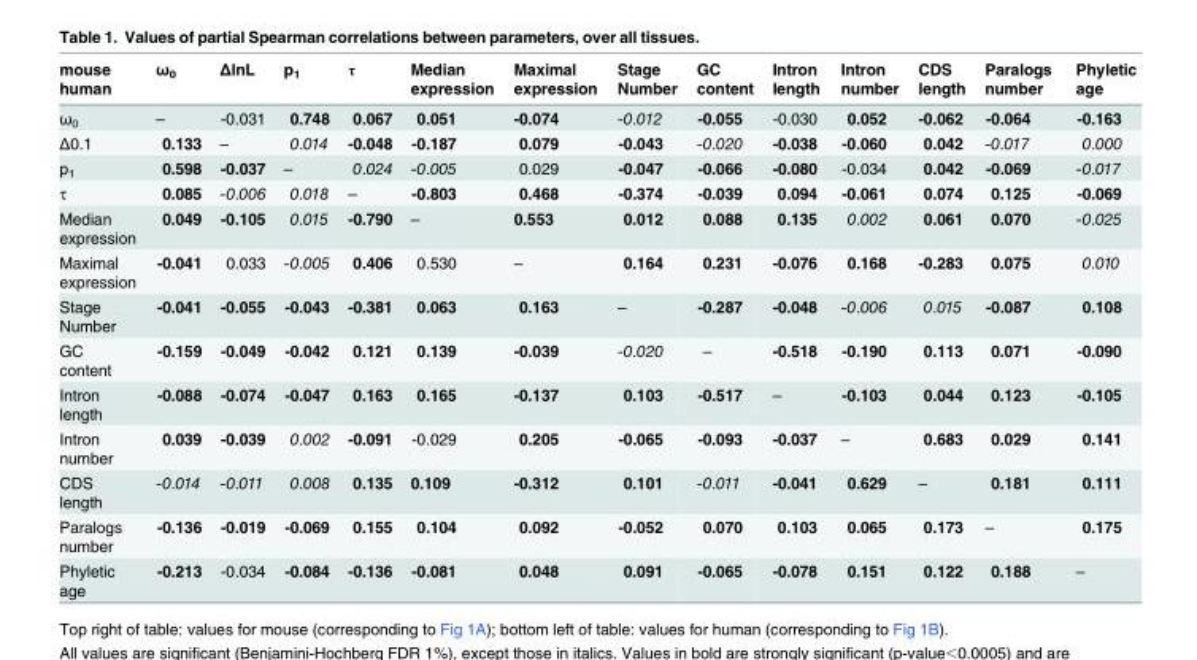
<table><thead><tr><td rowspan="2">mouse human</td><td rowspan="2">ω<sub>0</sub></td><td rowspan="2">ΔlnL</td><td rowspan="2">p<sub>1</sub></td><td rowspan="2">τ</td><td rowspan="2">Median expression</td><td rowspan="2">Maximal expression</td><td rowspan="2">Stage Number</td><td rowspan="2">GC content</td><td rowspan="2">Intron length</td><td rowspan="2">Intron number</td><td rowspan="2">CDS length</td><td rowspan="2">Paralogs number</td><td rowspan="2">Phyletic age</td></tr><tr></tr></thead><tbody><tr><td>ω<sub>0</sub></td><td>–</td><td>-0.031</td><td>0.748</td><td>0.067</td><td>0.051</td><td>-0.074</td><td>-0.012</td><td>-0.055</td><td>-0.030</td><td>0.052</td><td>-0.062</td><td>-0.064</td><td>-0.163</td></tr><tr><td>Δ0.1</td><td>0.133</td><td>–</td><td>0.014</td><td>-0.048</td><td>-0.187</td><td>0.079</td><td>-0.043</td><td>-0.020</td><td>-0.038</td><td>-0.060</td><td>0.042</td><td>-0.017</td><td>0.000</td></tr><tr><td>p<sub>1</sub></td><td>0.598</td><td>-0.037</td><td>–</td><td>0.024</td><td>-0.005</td><td>0.029</td><td>-0.047</td><td>-0.066</td><td>-0.080</td><td>-0.034</td><td>0.042</td><td>-0.069</td><td>-0.017</td></tr><tr><td>τ</td><td>0.085</td><td>-0.006</td><td>0.018</td><td>–</td><td>-0.803</td><td>0.468</td><td>-0.374</td><td>-0.039</td><td>0.094</td><td>-0.061</td><td>0.074</td><td>0.125</td><td>-0.069</td></tr><tr><td>Median expression</td><td>0.049</td><td>-0.105</td><td>0.015</td><td>-0.790</td><td>–</td><td>0.553</td><td>0.012</td><td>0.088</td><td>0.135</td><td>0.002</td><td>0.061</td><td>0.070</td><td>-0.025</td></tr><tr><td>Maximal expression</td><td>-0.041</td><td>0.033</td><td>-0.005</td><td>0.406</td><td>0.530</td><td>–</td><td>0.164</td><td>0.231</td><td>-0.076</td><td>0.168</td><td>-0.283</td><td>0.075</td><td>0.010</td></tr><tr><td>Stage Number</td><td>-0.041</td><td>-0.055</td><td>-0.043</td><td>-0.381</td><td>0.063</td><td>0.163</td><td>–</td><td>-0.287</td><td>-0.048</td><td>-0.006</td><td>0.015</td><td>-0.087</td><td>0.108</td></tr><tr><td>GC content</td><td>-0.159</td><td>-0.049</td><td>-0.042</td><td>0.121</td><td>0.139</td><td>-0.039</td><td>-0.020</td><td>–</td><td>-0.518</td><td>-0.190</td><td>0.113</td><td>0.071</td><td>-0.090</td></tr><tr><td>Intron length</td><td>-0.088</td><td>-0.074</td><td>-0.047</td><td>0.163</td><td>0.165</td><td>-0.137</td><td>0.103</td><td>-0.517</td><td>–</td><td>-0.103</td><td>0.044</td><td>0.123</td><td>-0.105</td></tr><tr><td>Intron number</td><td>0.039</td><td>-0.039</td><td>0.002</td><td>-0.091</td><td>-0.029</td><td>0.205</td><td>-0.065</td><td>-0.093</td><td>-0.037</td><td>–</td><td>0.683</td><td>0.029</td><td>0.141</td></tr><tr><td>CDS length</td><td>-0.014</td><td>-0.011</td><td>0.008</td><td>0.135</td><td>0.109</td><td>-0.312</td><td>0.101</td><td>-0.011</td><td>-0.041</td><td>0.629</td><td>–</td><td>0.181</td><td>0.111</td></tr><tr><td>Paralogs number</td><td>-0.136</td><td>-0.019</td><td>-0.069</td><td>0.155</td><td>0.104</td><td>0.092</td><td>-0.052</td><td>0.070</td><td>0.103</td><td>0.065</td><td>0.173</td><td>–</td><td>0.175</td></tr><tr><td>Phyletic age</td><td>-0.213</td><td>-0.034</td><td>-0.084</td><td>-0.136</td><td>-0.081</td><td>0.048</td><td>0.091</td><td>-0.065</td><td>-0.078</td><td>0.151</td><td>0.122</td><td>0.188</td><td>–</td></tr></tbody></table>